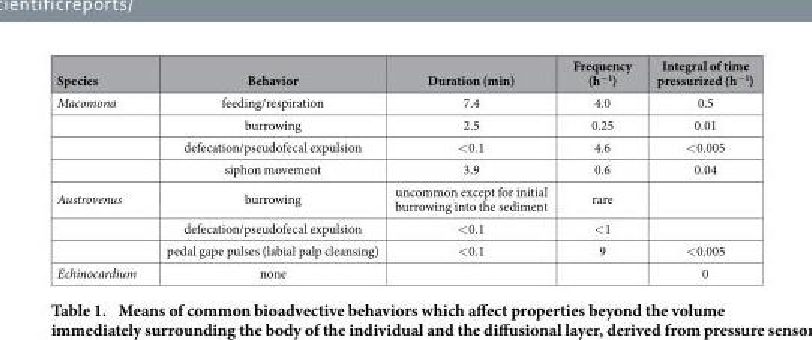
<table><thead><tr><td>Species</td><td>Behavior</td><td>Duration (min)</td><td>Frequency (h<sup>−1</sup>)</td><td>Integral of time pressurized (h<sup>−1</sup>)</td></tr></thead><tbody><tr><td rowspan="4">Macomona</td><td>feeding/respiration</td><td>7.4</td><td>4.0</td><td>0.5</td></tr><tr><td>burrowing</td><td>2.5</td><td>0.25</td><td>0.01</td></tr><tr><td>defecation/pseudofecal expulsion</td><td>&lt; 0.1</td><td>4.6</td><td>&lt; 0.005</td></tr><tr><td>siphon movement</td><td>3.9</td><td>0.6</td><td>0.04</td></tr><tr><td rowspan="3">Austrovenus</td><td>burrowing</td><td>uncommon except for initial burrowing into the sediment</td><td>rare</td><td></td></tr><tr><td>defecation/pseudofecal expulsion</td><td>&lt; 0.1</td><td>&lt; 1</td><td></td></tr><tr><td>pedal gape pulses (labial palp cleansing)</td><td>&lt; 0.1</td><td>9</td><td>&lt; 0.005</td></tr><tr><td>Echinocardium</td><td>none</td><td></td><td></td><td>0</td></tr></tbody></table>